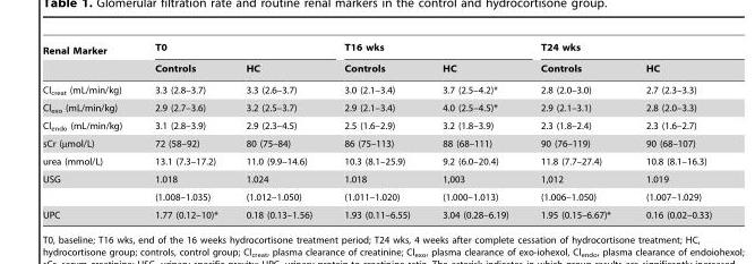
<table><thead><tr><td rowspan="2">Renal Marker</td><td colspan="2">T0</td><td colspan="2">T16 wks</td><td colspan="2">T24 wks</td></tr><tr><td>Controls</td><td>HC</td><td>Controls</td><td>HC</td><td>Controls</td><td>HC</td></tr></thead><tbody><tr><td>Cl<sub>creat</sub> (mL/min/kg)</td><td>3.3 (2.8–3.7)</td><td>3.3 (2.6–3.7)</td><td>3.0 (2.1–3.4)</td><td>3.7 (2.5–4.2)*</td><td>2.8 (2.0–3.0)</td><td>2.7 (2.3–3.3)</td></tr><tr><td>Cl<sub>exo</sub> (mL/min/kg)</td><td>2.9 (2.7–3.6)</td><td>3.2 (2.5–3.7)</td><td>2.9 (2.1–3.4)</td><td>4.0 (2.5–4.5)*</td><td>2.9 (2.1–3.1)</td><td>2.8 (2.0–3.3)</td></tr><tr><td>Cl<sub>endo</sub> (mL/min/kg)</td><td>3.1 (2.8–3.9)</td><td>2.9 (2.3–4.5)</td><td>2.5 (1.6–2.9)</td><td>3.2 (1.8–3.9)</td><td>2.3 (1.8–2.4)</td><td>2.3 (1.6–2.7)</td></tr><tr><td>sCr (µmol/L)</td><td>72 (58–92)</td><td>80 (75–84)</td><td>86 (75–113)</td><td>88 (68–111)</td><td>90 (76–119)</td><td>90 (68–107)</td></tr><tr><td>urea (mmol/L)</td><td>13.1 (7.3–17.2)</td><td>11.0 (9.9–14.6)</td><td>10.3 (8.1–25.9)</td><td>9.2 (6.0–20.4)</td><td>11.8 (7.7–27.4)</td><td>10.8 (8.1–16.3)</td></tr><tr><td rowspan="2">USG</td><td>1.018</td><td>1.024</td><td>1.018</td><td>1,003</td><td>1,012</td><td>1.019</td></tr><tr><td>(1.008–1.035)</td><td>(1.012–1.050)</td><td>(1.011–1.020)</td><td>(1.000–1.013)</td><td>(1.006–1.050)</td><td>(1.007–1.029)</td></tr><tr><td>UPC</td><td>1.77 (0.12–10)*</td><td>0.18 (0.13–1.56)</td><td>1.93 (0.11–6.55)</td><td>3.04 (0.28–6.19)</td><td>1.95 (0.15–6.67)*</td><td>0.16 (0.02–0.33)</td></tr></tbody></table>